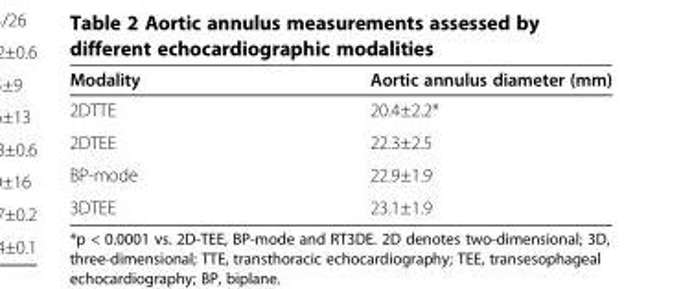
<table><thead><tr><td>Modality</td><td>Aortic annulus diameter (mm)</td></tr></thead><tbody><tr><td>2DTTE</td><td>20.4±2.2*</td></tr><tr><td>2DTEE</td><td>22.3±2.5</td></tr><tr><td>BP-mode</td><td>22.9±1.9</td></tr><tr><td>3DTEE</td><td>23.1±1.9</td></tr></tbody></table>